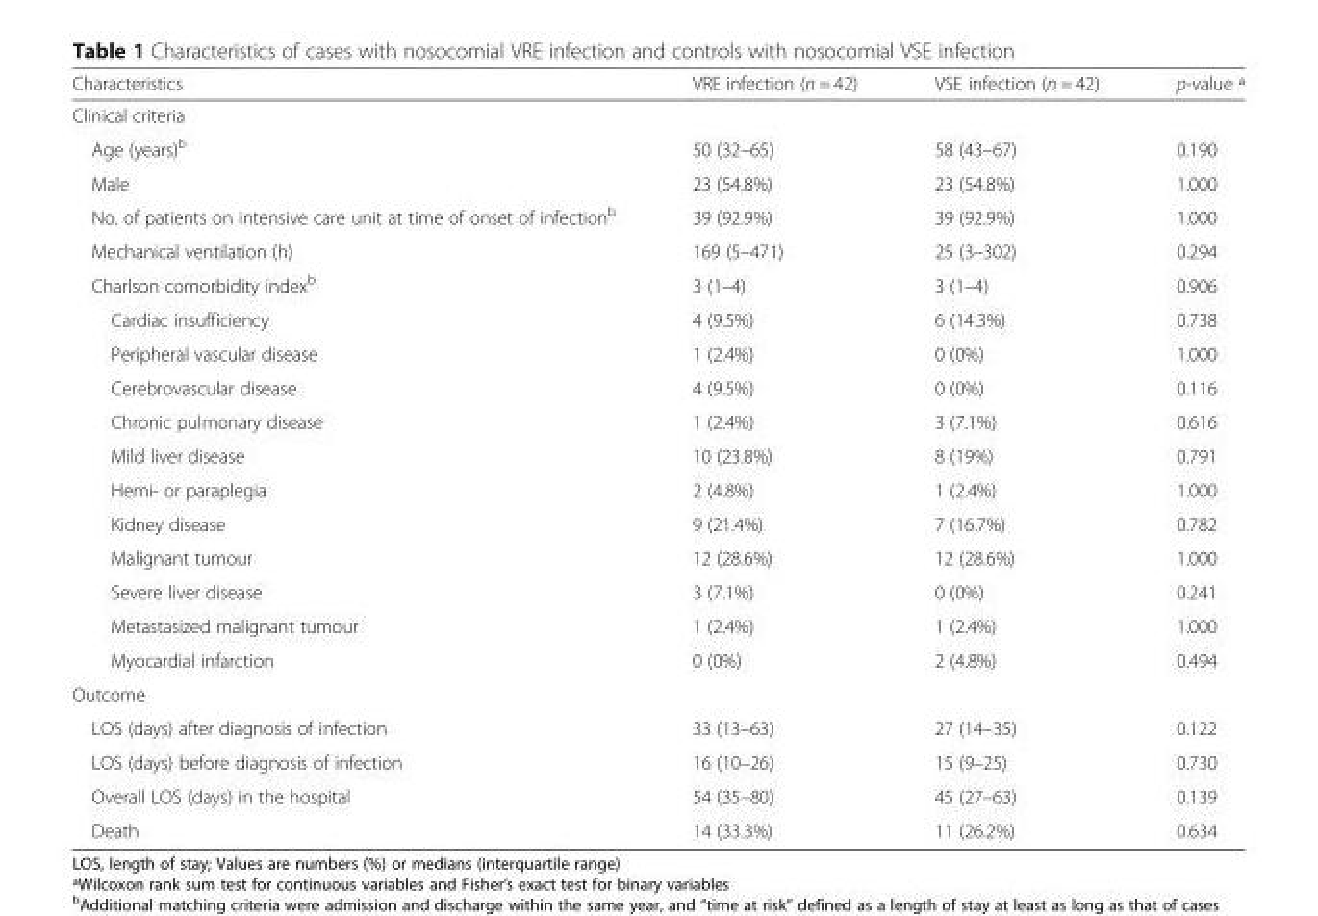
<table><thead><tr><td>Characteristics</td><td>VRE infection (n = 42)</td><td>VSE infection (n = 42)</td><td>p-value ª</td></tr></thead><tbody><tr><td colspan="4">Clinical criteria</td></tr><tr><td>Age (years)<sup>b</sup></td><td>50 (32–65)</td><td>58 (43–67)</td><td>0.190</td></tr><tr><td>Male</td><td>23 (54.8%)</td><td>23 (54.8%)</td><td>1.000</td></tr><tr><td>No. of patients on intensive care unit at time of onset of infection<sup>b</sup></td><td>39 (92.9%)</td><td>39 (92.9%)</td><td>1.000</td></tr><tr><td>Mechanical ventilation (h)</td><td>169 (5–471)</td><td>25 (3–302)</td><td>0.294</td></tr><tr><td>Charlson comorbidity index<sup>b</sup></td><td>3 (1–4)</td><td>3 (1–4)</td><td>0.906</td></tr><tr><td>Cardiac insufficiency</td><td>4 (9.5%)</td><td>6 (14.3%)</td><td>0.738</td></tr><tr><td>Peripheral vascular disease</td><td>1 (2.4%)</td><td>0 (0%)</td><td>1.000</td></tr><tr><td>Cerebrovascular disease</td><td>4 (9.5%)</td><td>0 (0%)</td><td>0.116</td></tr><tr><td>Chronic pulmonary disease</td><td>1 (2.4%)</td><td>3 (7.1%)</td><td>0.616</td></tr><tr><td>Mild liver disease</td><td>10 (23.8%)</td><td>8 (19%)</td><td>0.791</td></tr><tr><td>Hemi- or paraplegia</td><td>2 (4.8%)</td><td>1 (2.4%)</td><td>1.000</td></tr><tr><td>Kidney disease</td><td>9 (21.4%)</td><td>7 (16.7%)</td><td>0.782</td></tr><tr><td>Malignant tumour</td><td>12 (28.6%)</td><td>12 (28.6%)</td><td>1.000</td></tr><tr><td>Severe liver disease</td><td>3 (7.1%)</td><td>0 (0%)</td><td>0.241</td></tr><tr><td>Metastasized malignant tumour</td><td>1 (2.4%)</td><td>1 (2.4%)</td><td>1.000</td></tr><tr><td>Myocardial infarction</td><td>0 (0%)</td><td>2 (4.8%)</td><td>0.494</td></tr><tr><td colspan="4">Outcome</td></tr><tr><td>LOS (days) after diagnosis of infection</td><td>33 (13–63)</td><td>27 (14–35)</td><td>0.122</td></tr><tr><td>LOS (days) before diagnosis of infection</td><td>16 (10–26)</td><td>15 (9–25)</td><td>0.730</td></tr><tr><td>Overall LOS (days) in the hospital</td><td>54 (35–80)</td><td>45 (27–63)</td><td>0.139</td></tr><tr><td>Death</td><td>14 (33.3%)</td><td>11 (26.2%)</td><td>0.634</td></tr></tbody></table>